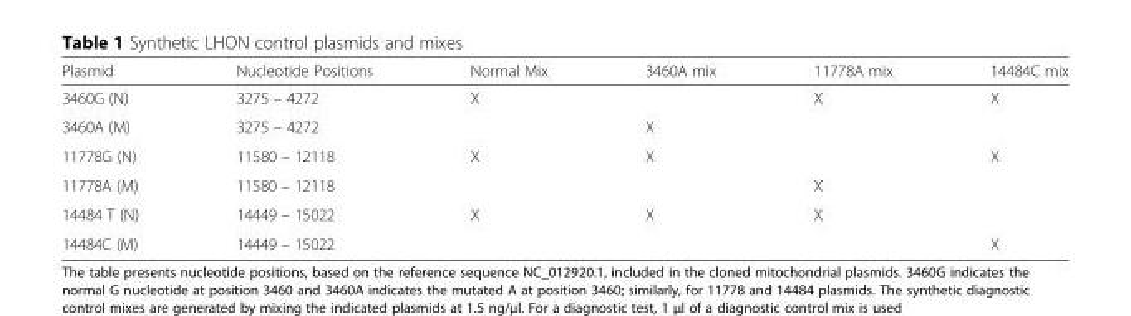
<table><thead><tr><td>Plasmid</td><td>Nucleotide Positions</td><td>Normal Mix</td><td>3460A mix</td><td>11778A mix</td><td>14484C mix</td></tr></thead><tbody><tr><td>3460G (N)</td><td>3275 – 4272</td><td>X</td><td></td><td>X</td><td>X</td></tr><tr><td>3460A (M)</td><td>3275 – 4272</td><td></td><td>X</td><td></td><td></td></tr><tr><td>11778G (N)</td><td>11580 – 12118</td><td>X</td><td>X</td><td></td><td>X</td></tr><tr><td>11778A (M)</td><td>11580 – 12118</td><td></td><td></td><td>X</td><td></td></tr><tr><td>14484 T (N)</td><td>14449 – 15022</td><td>X</td><td>X</td><td>X</td><td></td></tr><tr><td>14484C (M)</td><td>14449 – 15022</td><td></td><td></td><td></td><td>X</td></tr></tbody></table>